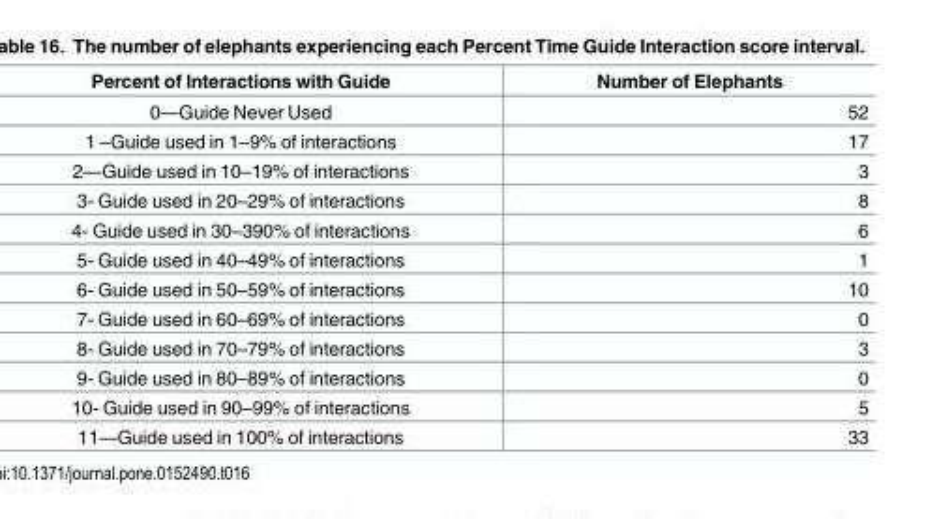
<table><thead><tr><td>Percent of Interactions with Guide</td><td>Number of Elephants</td></tr></thead><tbody><tr><td>0—Guide Never Used</td><td>52</td></tr><tr><td>1 –Guide used in 1–9% of interactions</td><td>17</td></tr><tr><td>2—Guide used in 10–19% of interactions</td><td>3</td></tr><tr><td>3- Guide used in 20–29% of interactions</td><td>8</td></tr><tr><td>4- Guide used in 30–390% of interactions</td><td>6</td></tr><tr><td>5- Guide used in 40–49% of interactions</td><td>1</td></tr><tr><td>6- Guide used in 50–59% of interactions</td><td>10</td></tr><tr><td>7- Guide used in 60–69% of interactions</td><td>0</td></tr><tr><td>8- Guide used in 70–79% of interactions</td><td>3</td></tr><tr><td>9- Guide used in 80–89% of interactions</td><td>0</td></tr><tr><td>10- Guide used in 90–99% of interactions</td><td>5</td></tr><tr><td>11—Guide used in 100% of interactions</td><td>33</td></tr></tbody></table>